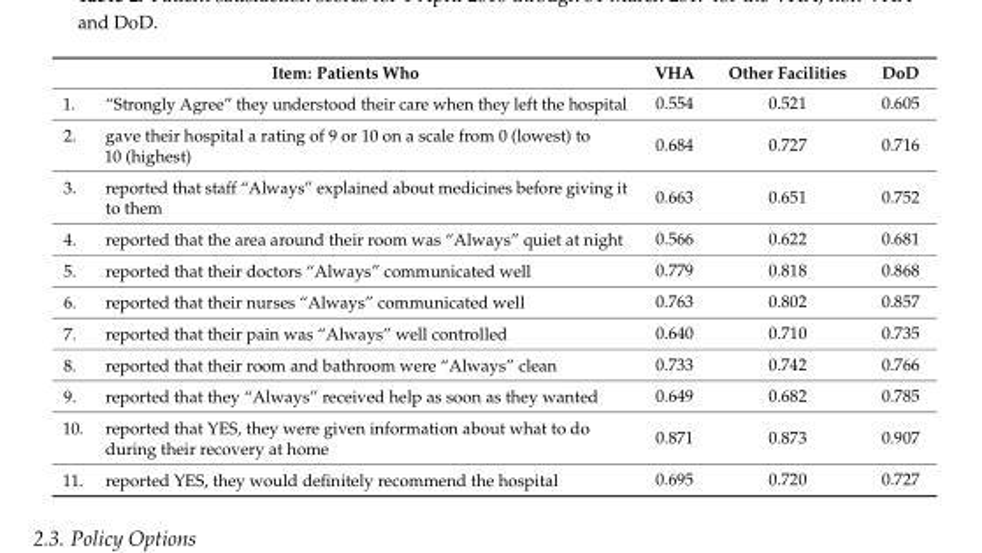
<table><thead><tr><td>Item: Patients Who</td><td>VHA</td><td>Other Facilities</td><td>DoD</td></tr></thead><tbody><tr><td>1. “Strongly Agree” they understood their care when they left the hospital</td><td>0.554</td><td>0.521</td><td>0.605</td></tr><tr><td>2. gave their hospital a rating of 9 or 10 on a scale from 0 (lowest) to 10 (highest)</td><td>0.684</td><td>0.727</td><td>0.716</td></tr><tr><td>3. reported that staff “Always” explained about medicines before giving it to them</td><td>0.663</td><td>0.651</td><td>0.752</td></tr><tr><td>4. reported that the area around their room was “Always” quiet at night</td><td>0.566</td><td>0.622</td><td>0.681</td></tr><tr><td>5. reported that their doctors “Always” communicated well</td><td>0.779</td><td>0.818</td><td>0.868</td></tr><tr><td>6. reported that their nurses “Always” communicated well</td><td>0.763</td><td>0.802</td><td>0.857</td></tr><tr><td>7. reported that their pain was “Always” well controlled</td><td>0.640</td><td>0.710</td><td>0.735</td></tr><tr><td>8. reported that their room and bathroom were “Always” clean</td><td>0.733</td><td>0.742</td><td>0.766</td></tr><tr><td>9. reported that they “Always” received help as soon as they wanted</td><td>0.649</td><td>0.682</td><td>0.785</td></tr><tr><td>10. reported that YES, they were given information about what to do during their recovery at home</td><td>0.871</td><td>0.873</td><td>0.907</td></tr><tr><td>11. reported YES, they would definitely recommend the hospital</td><td>0.695</td><td>0.720</td><td>0.727</td></tr></tbody></table>